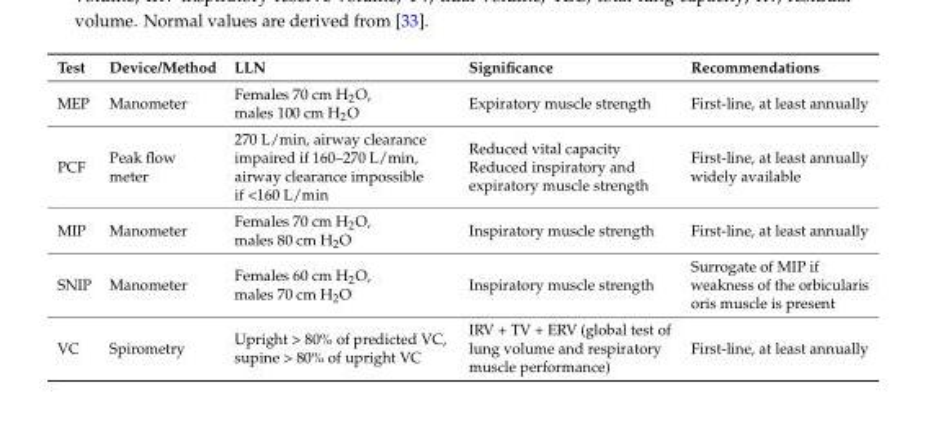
<table><thead><tr><td>Test</td><td>Device/Method</td><td>LLN</td><td>Significance</td><td>Recommendations</td></tr></thead><tbody><tr><td>MEP</td><td>Manometer</td><td>Females 70 cm H<sub>2</sub>O, males 100 cm H<sub>2</sub>O</td><td>Expiratory muscle strength</td><td>First-line, at least annually</td></tr><tr><td>PCF</td><td>Peak flow meter</td><td>270 L/min, airway clearance impaired if 160–270 L/min, airway clearance impossible if &lt;160 L/min</td><td>Reduced vital capacity Reduced inspiratory and expiratory muscle strength</td><td>First-line, at least annually widely available</td></tr><tr><td>MIP</td><td>Manometer</td><td>Females 70 cm H<sub>2</sub>O, males 80 cm H<sub>2</sub>O</td><td>Inspiratory muscle strength</td><td>First-line, at least annually</td></tr><tr><td>SNIP</td><td>Manometer</td><td>Females 60 cm H<sub>2</sub>O, males 70 cm H<sub>2</sub>O</td><td>Inspiratory muscle strength</td><td>Surrogate of MIP if weakness of the orbicularis oris muscle is present</td></tr><tr><td>VC</td><td>Spirometry</td><td>Upright &gt; 80% of predicted VC, supine &gt; 80% of upright VC</td><td>IRV + TV + ERV (global test of lung volume and respiratory muscle performance)</td><td>First-line, at least annually</td></tr></tbody></table>